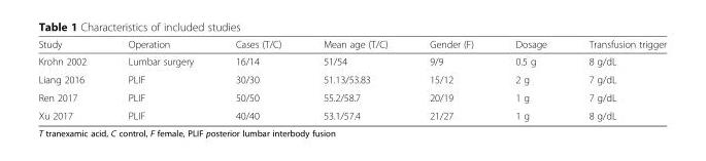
<table><thead><tr><td>Study</td><td>Operation</td><td>Cases (T/C)</td><td>Mean age (T/C)</td><td>Gender (F)</td><td>Dosage</td><td>Transfusion trigger</td></tr></thead><tbody><tr><td>Krohn 2002</td><td>Lumbar surgery</td><td>16/14</td><td>51/54</td><td>9/9</td><td>0.5 g</td><td>8 g/dL</td></tr><tr><td>Liang 2016</td><td>PLIF</td><td>30/30</td><td>51.13/53.83</td><td>15/12</td><td>2 g</td><td>7 g/dL</td></tr><tr><td>Ren 2017</td><td>PLIF</td><td>50/50</td><td>55.2/58.7</td><td>20/19</td><td>1 g</td><td>7 g/dL</td></tr><tr><td>Xu 2017</td><td>PLIF</td><td>40/40</td><td>53.1/57.4</td><td>21/27</td><td>1 g</td><td>8 g/dL</td></tr></tbody></table>